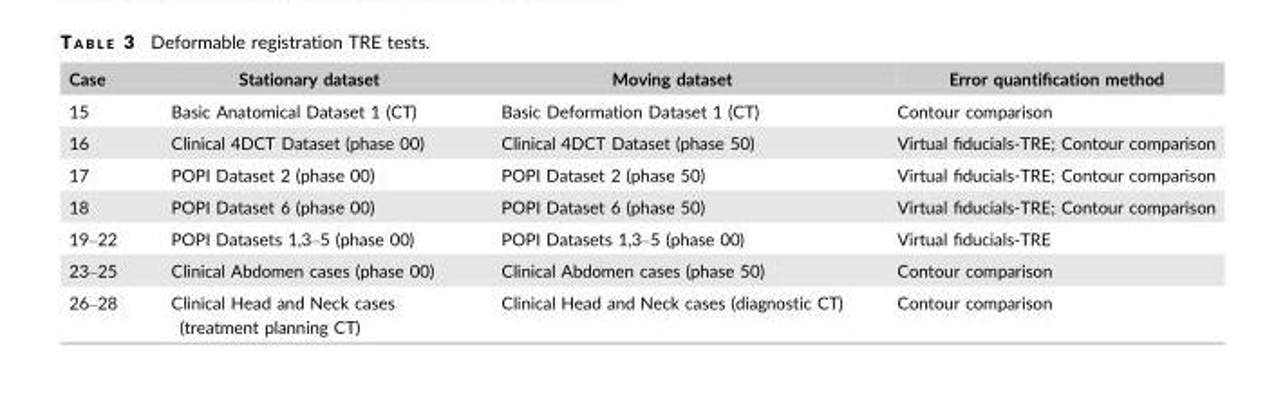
<table><thead><tr><td>Case</td><td>Stationary dataset</td><td>Moving dataset</td><td>Error quantification method</td></tr></thead><tbody><tr><td>15</td><td>Basic Anatomical Dataset 1 (CT)</td><td>Basic Deformation Dataset 1 (CT)</td><td>Contour comparison</td></tr><tr><td>16</td><td>Clinical 4DCT Dataset (phase 00)</td><td>Clinical 4DCT Dataset (phase 50)</td><td>Virtual fiducials-TRE; Contour comparison</td></tr><tr><td>17</td><td>POPI Dataset 2 (phase 00)</td><td>POPI Dataset 2 (phase 50)</td><td>Virtual fiducials-TRE; Contour comparison</td></tr><tr><td>18</td><td>POPI Dataset 6 (phase 00)</td><td>POPI Dataset 6 (phase 50)</td><td>Virtual fiducials-TRE; Contour comparison</td></tr><tr><td>19–22</td><td>POPI Datasets 1,3–5 (phase 00)</td><td>POPI Datasets 1,3–5 (phase 00)</td><td>Virtual fiducials-TRE</td></tr><tr><td>23–25</td><td>Clinical Abdomen cases (phase 00)</td><td>Clinical Abdomen cases (phase 50)</td><td>Contour comparison</td></tr><tr><td>26–28</td><td>Clinical Head and Neck cases (treatment planning CT)</td><td>Clinical Head and Neck cases (diagnostic CT)</td><td>Contour comparison</td></tr></tbody></table>